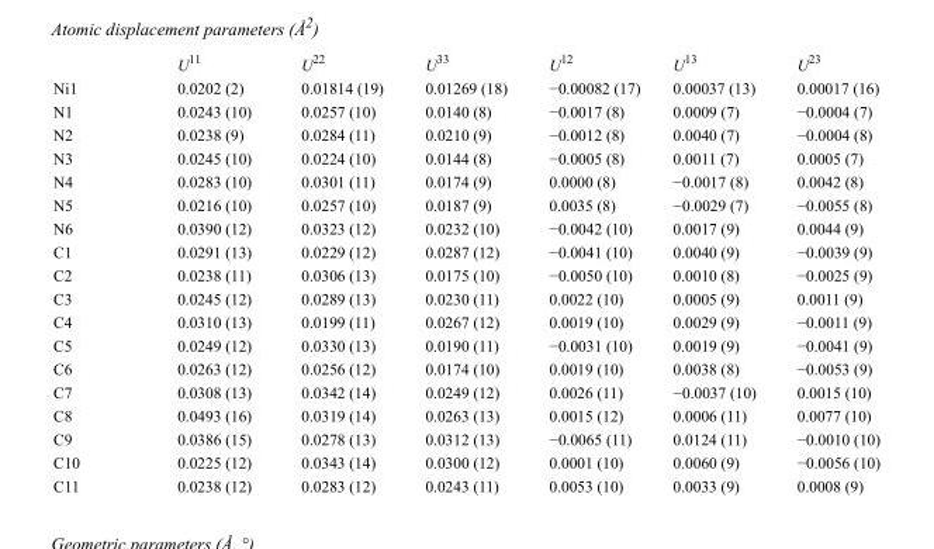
<table><thead><tr><td></td><td>U<sup>11</sup></td><td>U<sup>22</sup></td><td>U<sup>33</sup></td><td>U<sup>12</sup></td><td>U<sup>13</sup></td><td>U<sup>23</sup></td></tr></thead><tbody><tr><td>Ni1</td><td>0.0202 (2)</td><td>0.01814 (19)</td><td>0.01269 (18)</td><td>−0.00082 (17)</td><td>0.00037 (13)</td><td>0.00017 (16)</td></tr><tr><td>N1</td><td>0.0243 (10)</td><td>0.0257 (10)</td><td>0.0140 (8)</td><td>−0.0017 (8)</td><td>0.0009 (7)</td><td>−0.0004 (7)</td></tr><tr><td>N2</td><td>0.0238 (9)</td><td>0.0284 (11)</td><td>0.0210 (9)</td><td>−0.0012 (8)</td><td>0.0040 (7)</td><td>−0.0004 (8)</td></tr><tr><td>N3</td><td>0.0245 (10)</td><td>0.0224 (10)</td><td>0.0144 (8)</td><td>−0.0005 (8)</td><td>0.0011 (7)</td><td>0.0005 (7)</td></tr><tr><td>N4</td><td>0.0283 (10)</td><td>0.0301 (11)</td><td>0.0174 (9)</td><td>0.0000 (8)</td><td>−0.0017 (8)</td><td>0.0042 (8)</td></tr><tr><td>N5</td><td>0.0216 (10)</td><td>0.0257 (10)</td><td>0.0187 (9)</td><td>0.0035 (8)</td><td>−0.0029 (7)</td><td>−0.0055 (8)</td></tr><tr><td>N6</td><td>0.0390 (12)</td><td>0.0323 (12)</td><td>0.0232 (10)</td><td>−0.0042 (10)</td><td>0.0017 (9)</td><td>0.0044 (9)</td></tr><tr><td>C1</td><td>0.0291 (13)</td><td>0.0229 (12)</td><td>0.0287 (12)</td><td>−0.0041 (10)</td><td>0.0040 (9)</td><td>−0.0039 (9)</td></tr><tr><td>C2</td><td>0.0238 (11)</td><td>0.0306 (13)</td><td>0.0175 (10)</td><td>−0.0050 (10)</td><td>0.0010 (8)</td><td>−0.0025 (9)</td></tr><tr><td>C3</td><td>0.0245 (12)</td><td>0.0289 (13)</td><td>0.0230 (11)</td><td>0.0022 (10)</td><td>0.0005 (9)</td><td>0.0011 (9)</td></tr><tr><td>C4</td><td>0.0310 (13)</td><td>0.0199 (11)</td><td>0.0267 (12)</td><td>0.0019 (10)</td><td>0.0029 (9)</td><td>−0.0011 (9)</td></tr><tr><td>C5</td><td>0.0249 (12)</td><td>0.0330 (13)</td><td>0.0190 (11)</td><td>−0.0031 (10)</td><td>0.0019 (9)</td><td>−0.0041 (9)</td></tr><tr><td>C6</td><td>0.0263 (12)</td><td>0.0256 (12)</td><td>0.0174 (10)</td><td>0.0019 (10)</td><td>0.0038 (8)</td><td>−0.0053 (9)</td></tr><tr><td>C7</td><td>0.0308 (13)</td><td>0.0342 (14)</td><td>0.0249 (12)</td><td>0.0026 (11)</td><td>−0.0037 (10)</td><td>0.0015 (10)</td></tr><tr><td>C8</td><td>0.0493 (16)</td><td>0.0319 (14)</td><td>0.0263 (13)</td><td>0.0015 (12)</td><td>0.0006 (11)</td><td>0.0077 (10)</td></tr><tr><td>C9</td><td>0.0386 (15)</td><td>0.0278 (13)</td><td>0.0312 (13)</td><td>−0.0065 (11)</td><td>0.0124 (11)</td><td>−0.0010 (10)</td></tr><tr><td>C10</td><td>0.0225 (12)</td><td>0.0343 (14)</td><td>0.0300 (12)</td><td>0.0001 (10)</td><td>0.0060 (9)</td><td>−0.0056 (10)</td></tr><tr><td>C11</td><td>0.0238 (12)</td><td>0.0283 (12)</td><td>0.0243 (11)</td><td>0.0053 (10)</td><td>0.0033 (9)</td><td>0.0008 (9)</td></tr></tbody></table>